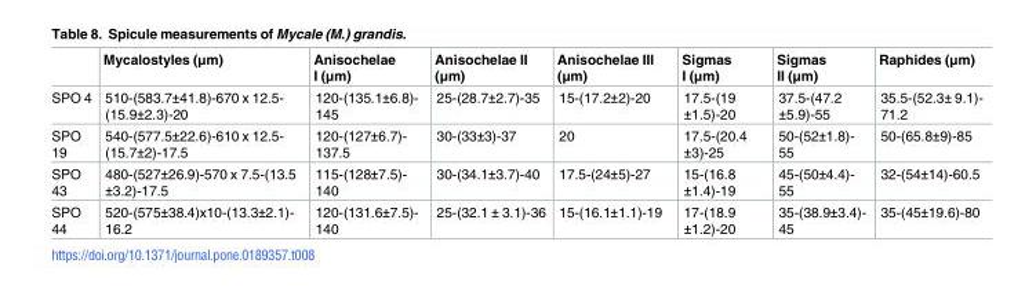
<table><thead><tr><td></td><td>Mycalostyles (μm)</td><td>Anisochelae I (μm)</td><td>Anisochelae II (μm)</td><td>Anisochelae III (μm)</td><td>Sigmas I (μm)</td><td>Sigmas II (μm)</td><td>Raphides (μm)</td></tr></thead><tbody><tr><td>SPO 4</td><td>510-(583.7±41.8)-670 x 12.5- (15.9±2.3)-20</td><td>120-(135.1±6.8)- 145</td><td>25-(28.7±2.7)-35</td><td>15-(17.2±2)-20</td><td>17.5-(19 ±1.5)-20</td><td>37.5-(47.2 ±5.9)-55</td><td>35.5-(52.3± 9.1)- 71.2</td></tr><tr><td>SPO 19</td><td>540-(577.5±22.6)-610 x 12.5- (15.7±2)-17.5</td><td>120-(127±6.7)- 137.5</td><td>30-(33±3)-37</td><td>20</td><td>17.5-(20.4 ±3)-25</td><td>50-(52±1.8)- 55</td><td>50-(65.8±9)-85</td></tr><tr><td>SPO 43</td><td>480-(527±26.9)-570 x 7.5-(13.5 ±3.2)-17.5</td><td>115-(128±7.5)- 140</td><td>30-(34.1±3.7)-40</td><td>17.5-(24±5)-27</td><td>15-(16.8 ±1.4)-19</td><td>45-(50±4.4)- 55</td><td>32-(54±14)-60.5</td></tr><tr><td>SPO 44</td><td>520-(575±38.4)x10-(13.3±2.1)- 16.2</td><td>120-(131.6±7.5)- 140</td><td>25-(32.1 ± 3.1)-36</td><td>15-(16.1±1.1)-19</td><td>17-(18.9 ±1.2)-20</td><td>35-(38.9±3.4)- 45</td><td>35-(45±19.6)-80</td></tr></tbody></table>